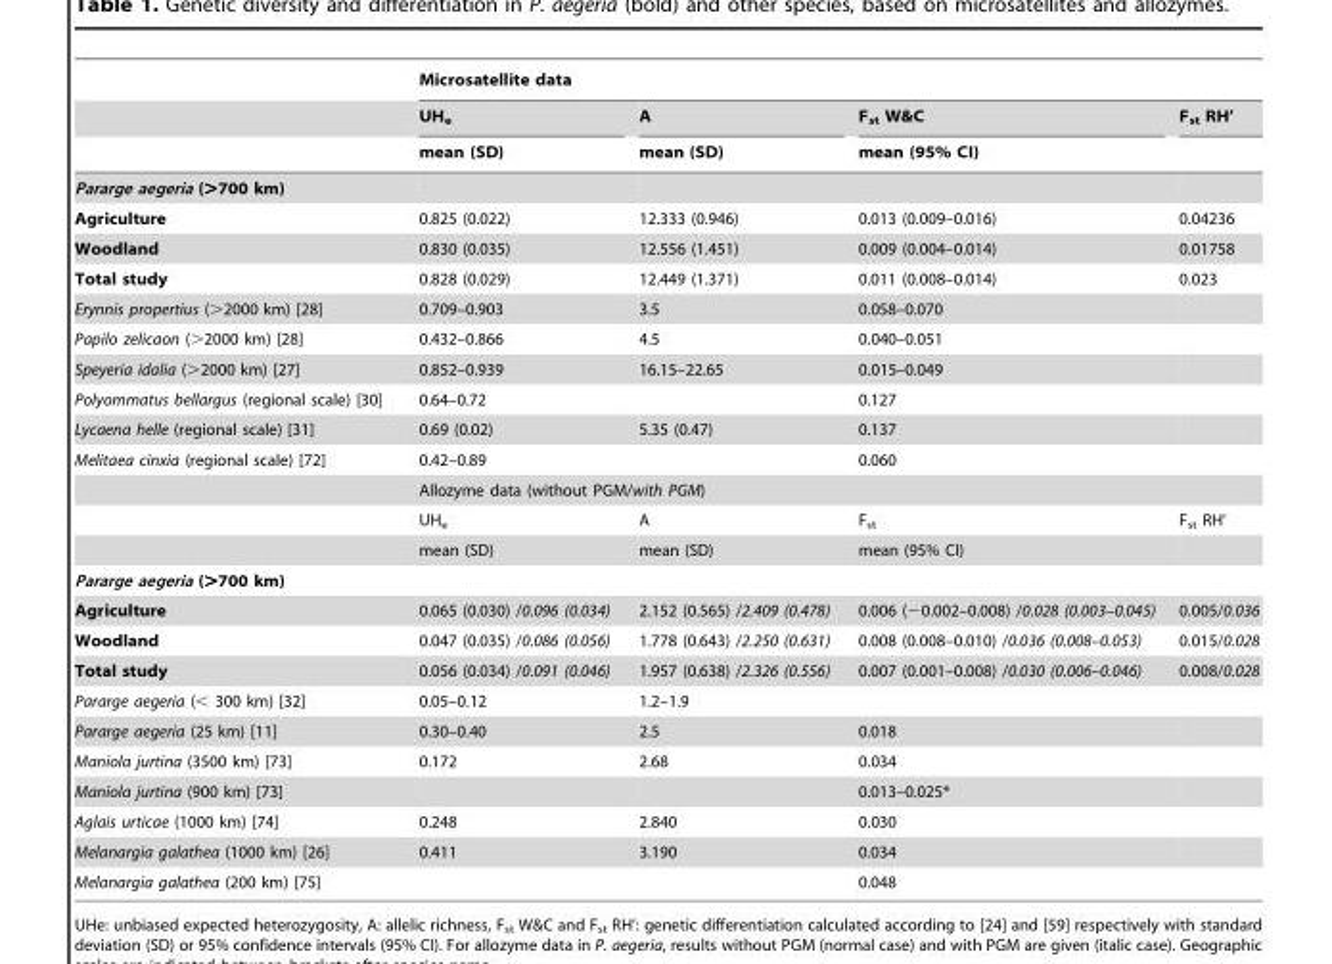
<table><thead><tr><td rowspan="3"></td><td colspan="4">Microsatellite data</td></tr><tr><td rowspan="2">UH<sub>e</sub> mean (SD)</td><td rowspan="2">A mean (SD)</td><td rowspan="2">F<sub>st</sub> W&amp;C mean (95% CI)</td><td rowspan="2">F<sub>st</sub> RH’</td></tr><tr></tr></thead><tbody><tr><td colspan="5">Pararge aegeria (&gt;700 km)</td></tr><tr><td>Agriculture</td><td>0.825 (0.022)</td><td>12.333 (0.946)</td><td>0.013 (0.009–0.016)</td><td>0.04236</td></tr><tr><td>Woodland</td><td>0.830 (0.035)</td><td>12.556 (1.451)</td><td>0.009 (0.004–0.014)</td><td>0.01758</td></tr><tr><td>Total study</td><td>0.828 (0.029)</td><td>12.449 (1.371)</td><td>0.011 (0.008–0.014)</td><td>0.023</td></tr><tr><td>Erynnis propertius (&gt;2000 km) [28]</td><td>0.709–0.903</td><td>3.5</td><td>0.058–0.070</td><td></td></tr><tr><td>Papilo zelicaon (&gt;2000 km) [28]</td><td>0.432–0.866</td><td>4.5</td><td>0.040–0.051</td><td></td></tr><tr><td>Speyeria idalia (&gt;2000 km) [27]</td><td>0.852–0.939</td><td>16.15–22.65</td><td>0.015–0.049</td><td></td></tr><tr><td>Polyommatus bellargus (regional scale) [30]</td><td>0.64–0.72</td><td></td><td>0.127</td><td></td></tr><tr><td>Lycaena helle (regional scale) [31]</td><td>0.69 (0.02)</td><td>5.35 (0.47)</td><td>0.137</td><td></td></tr><tr><td rowspan="4">Melitaea cinxia (regional scale) [72]</td><td>0.42–0.89</td><td></td><td>0.060</td><td></td></tr><tr><td colspan="4">Allozyme data (without PGM/with PGM)</td></tr><tr><td>UH<sub>e</sub></td><td>A</td><td>F<sub>st</sub></td><td>F<sub>st</sub> RH’</td></tr><tr><td>mean (SD)</td><td>mean (SD)</td><td>mean (95% CI)</td><td></td></tr><tr><td colspan="5">Pararge aegeria (&gt;700 km)</td></tr><tr><td>Agriculture</td><td>0.065 (0.030) /0.096 (0.034)</td><td>2.152 (0.565) /2.409 (0.478)</td><td>0.006 (−0.002–0.008) /0.028 (0.003–0.045)</td><td>0.005/0.036</td></tr><tr><td>Woodland</td><td>0.047 (0.035) /0.086 (0.056)</td><td>1.778 (0.643) /2.250 (0.631)</td><td>0.008 (0.008–0.010) /0.036 (0.008–0.053)</td><td>0.015/0.028</td></tr><tr><td>Total study</td><td>0.056 (0.034) /0.091 (0.046)</td><td>1.957 (0.638) /2.326 (0.556)</td><td>0.007 (0.001–0.008) /0.030 (0.006–0.046)</td><td>0.008/0.028</td></tr><tr><td>Pararge aegeria (&lt; 300 km) [32]</td><td>0.05–0.12</td><td>1.2–1.9</td><td></td><td></td></tr><tr><td>Pararge aegeria (25 km) [11]</td><td>0.30–0.40</td><td>2.5</td><td>0.018</td><td></td></tr><tr><td>Maniola jurtina (3500 km) [73]</td><td>0.172</td><td>2.68</td><td>0.034</td><td></td></tr><tr><td>Maniola jurtina (900 km) [73]</td><td></td><td></td><td>0.013–0.025*</td><td></td></tr><tr><td>Aglais urticae (1000 km) [74]</td><td>0.248</td><td>2.840</td><td>0.030</td><td></td></tr><tr><td>Melanargia galathea (1000 km) [26]</td><td>0.411</td><td>3.190</td><td>0.034</td><td></td></tr><tr><td>Melanargia galathea (200 km) [75]</td><td></td><td></td><td>0.048</td><td></td></tr></tbody></table>